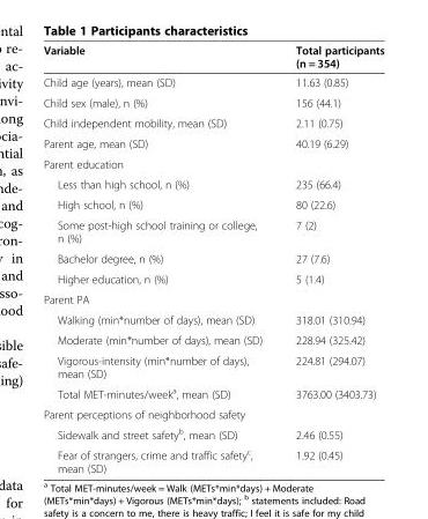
<table><thead><tr><td>Variable</td><td>Total participants (n = 354)</td></tr></thead><tbody><tr><td>Child age (years), mean (SD)</td><td>11.63 (0.85)</td></tr><tr><td>Child sex (male), n (%)</td><td>156 (44.1)</td></tr><tr><td>Child independent mobility, mean (SD)</td><td>2.11 (0.75)</td></tr><tr><td>Parent age, mean (SD)</td><td>40.19 (6.29)</td></tr><tr><td colspan="2">Parent education</td></tr><tr><td>Less than high school, n (%)</td><td>235 (66.4)</td></tr><tr><td>High school, n (%)</td><td>80 (22.6)</td></tr><tr><td>Some post-high school training or college, n (%)</td><td>7 (2)</td></tr><tr><td>Bachelor degree, n (%)</td><td>27 (7.6)</td></tr><tr><td>Higher education, n (%)</td><td>5 (1.4)</td></tr><tr><td colspan="2">Parent PA</td></tr><tr><td>Walking (min*number of days), mean (SD)</td><td>318.01 (310.94)</td></tr><tr><td>Moderate (min*number of days), mean (SD)</td><td>228.94 (325.42)</td></tr><tr><td>Vigorous-intensity (min*number of days), mean (SD)</td><td>224.81 (294.07)</td></tr><tr><td>Total MET-minutes/week<sup>a</sup>, mean (SD)</td><td>3763.00 (3403.73)</td></tr><tr><td colspan="2">Parent perceptions of neighborhood safety</td></tr><tr><td>Sidewalk and street safety<sup>b</sup>, mean (SD)</td><td>2.46 (0.55)</td></tr><tr><td>Fear of strangers, crime and traffic safety<sup>c</sup>, mean (SD)</td><td>1.92 (0.45)</td></tr></tbody></table>